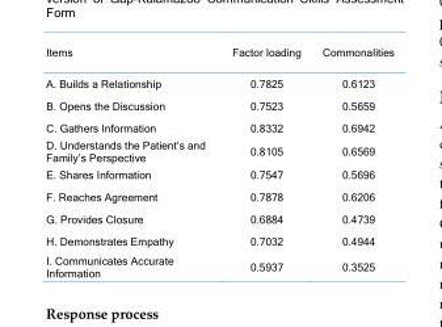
<table><thead><tr><td>Items</td><td>Factor loading</td><td>Commonalities</td></tr></thead><tbody><tr><td>A. Builds a Relationship</td><td>0.7825</td><td>0.6123</td></tr><tr><td>B. Opens the Discussion</td><td>0.7523</td><td>0.5659</td></tr><tr><td>C. Gathers Information</td><td>0.8332</td><td>0.6942</td></tr><tr><td>D. Understands the Patient’s and Family’s Perspective</td><td>0.8105</td><td>0.6569</td></tr><tr><td>E. Shares Information</td><td>0.7547</td><td>0.5696</td></tr><tr><td>F. Reaches Agreement</td><td>0.7878</td><td>0.6206</td></tr><tr><td>G. Provides Closure</td><td>0.6884</td><td>0.4739</td></tr><tr><td>H. Demonstrates Empathy</td><td>0.7032</td><td>0.4944</td></tr><tr><td>I. Communicates Accurate Information</td><td>0.5937</td><td>0.3525</td></tr></tbody></table>